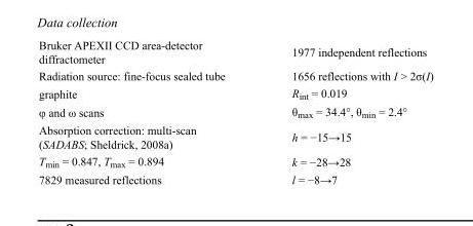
<table><tbody><tr><td>Bruker APEXII CCD area-detector diffractometer</td><td>1977 independent reflections</td></tr><tr><td>Radiation source: fine-focus sealed tube</td><td>1656 reflections with I &gt; 2σ(I)</td></tr><tr><td>graphite</td><td>R<sub>int</sub> = 0.019</td></tr><tr><td>φ and ω scans</td><td>θ<sub>max</sub> = 34.4°, θ<sub>min</sub> = 2.4°</td></tr><tr><td>Absorption correction: multi-scan (SADABS; Sheldrick, 2008a)</td><td>h = −15→15</td></tr><tr><td>T<sub>min</sub> = 0.847, T<sub>max</sub> = 0.894</td><td>k = −28→28</td></tr><tr><td>7829 measured reflections</td><td>l = −8→7</td></tr></tbody></table>